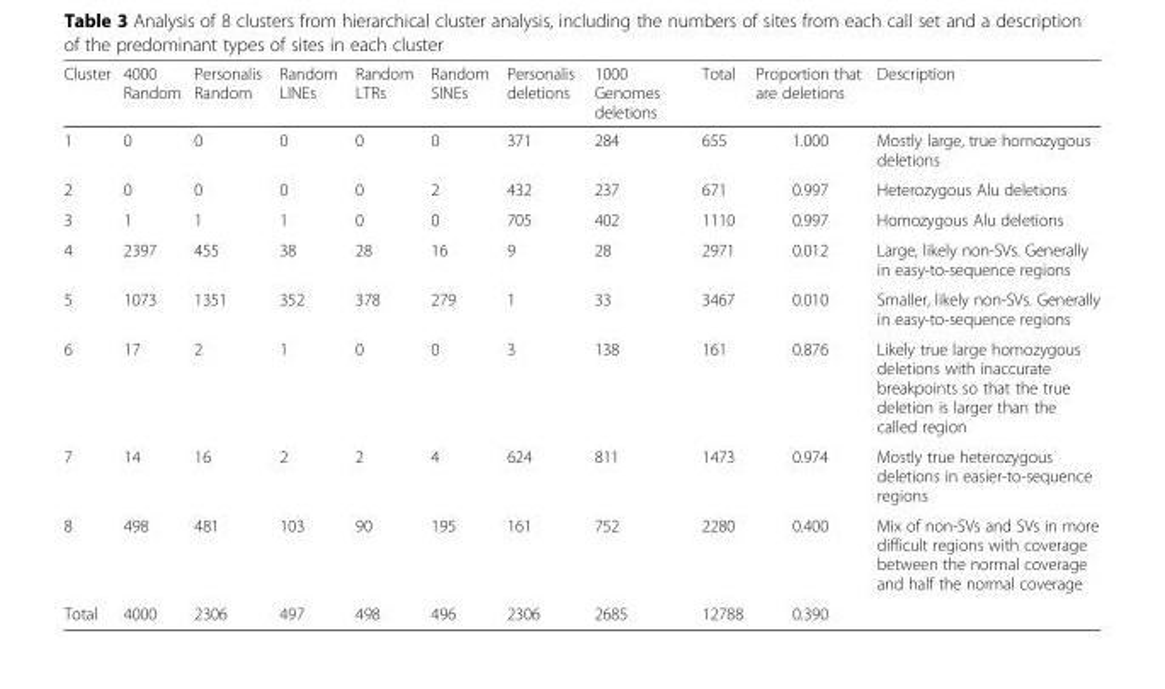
<table><thead><tr><td>Cluster</td><td>4000 Random</td><td>Personalis Random</td><td>Random LINEs</td><td>Random LTRs</td><td>Random SINEs</td><td>Personalis deletions</td><td>1000 Genomes deletions</td><td>Total</td><td>Proportion that are deletions</td><td>Description</td></tr></thead><tbody><tr><td>1</td><td>0</td><td>0</td><td>0</td><td>0</td><td>0</td><td>371</td><td>284</td><td>655</td><td>1.000</td><td>Mostly large, true homozygous deletions</td></tr><tr><td>2</td><td>0</td><td>0</td><td>0</td><td>0</td><td>2</td><td>432</td><td>237</td><td>671</td><td>0.997</td><td>Heterozygous Alu deletions</td></tr><tr><td>3</td><td>1</td><td>1</td><td>1</td><td>0</td><td>0</td><td>705</td><td>402</td><td>1110</td><td>0.997</td><td>Homozygous Alu deletions</td></tr><tr><td>4</td><td>2397</td><td>455</td><td>38</td><td>28</td><td>16</td><td>9</td><td>28</td><td>2971</td><td>0.012</td><td>Large, likely non-SVs. Generally in easy-to-sequence regions</td></tr><tr><td>5</td><td>1073</td><td>1351</td><td>352</td><td>378</td><td>279</td><td>1</td><td>33</td><td>3467</td><td>0.010</td><td>Smaller, likely non-SVs. Generally in easy-to-sequence regions</td></tr><tr><td>6</td><td>17</td><td>2</td><td>1</td><td>0</td><td>0</td><td>3</td><td>138</td><td>161</td><td>0.876</td><td>Likely true large homozygous deletions with inaccurate breakpoints so that the true deletion is larger than the called region</td></tr><tr><td>7</td><td>14</td><td>16</td><td>2</td><td>2</td><td>4</td><td>624</td><td>811</td><td>1473</td><td>0.974</td><td>Mostly true heterozygous deletions in easier-to-sequence regions</td></tr><tr><td>8</td><td>498</td><td>481</td><td>103</td><td>90</td><td>195</td><td>161</td><td>752</td><td>2280</td><td>0.400</td><td>Mix of non-SVs and SVs in more difficult regions with coverage between the normal coverage and half the normal coverage</td></tr><tr><td>Total</td><td>4000</td><td>2306</td><td>497</td><td>498</td><td>496</td><td>2306</td><td>2685</td><td>12788</td><td>0.390</td><td></td></tr></tbody></table>